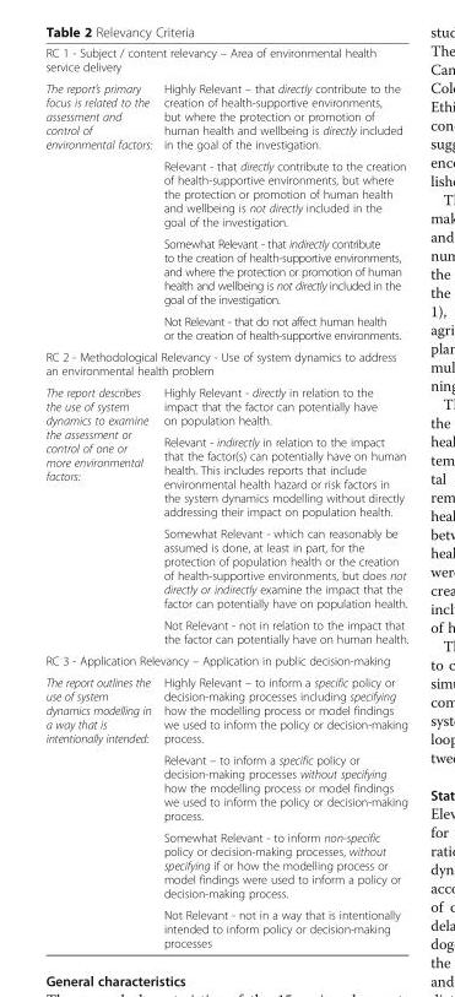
<table><tbody><tr><td colspan="2">RC 1 - Subject / content relevancy – Area of environmental health service delivery</td></tr><tr><td rowspan="4">The report’s primary focus is related to the assessment and control of environmental factors:</td><td>Highly Relevant – that directly contribute to the creation of health-supportive environments, but where the protection or promotion of human health and wellbeing is directly included in the goal of the investigation.</td></tr><tr><td>Relevant - that directly contribute to the creation of health-supportive environments, but where the protection or promotion of human health and wellbeing is not directly included in the goal of the investigation.</td></tr><tr><td>Somewhat Relevant - that indirectly contribute to the creation of health-supportive environments, and where the protection or promotion of human health and wellbeing is not directly included in the goal of the investigation.</td></tr><tr><td>Not Relevant - that do not affect human health or the creation of health-supportive environments.</td></tr><tr><td colspan="2">RC 2 - Methodological Relevancy - Use of system dynamics to address an environmental health problem</td></tr><tr><td rowspan="4">The report describes the use of system dynamics to examine the assessment or control of one or more environmental factors:</td><td>Highly Relevant - directly in relation to the impact that the factor can potentially have on population health.</td></tr><tr><td>Relevant - indirectly in relation to the impact that the factor(s) can potentially have on human health. This includes reports that include environmental health hazard or risk factors in the system dynamics modelling without directly addressing their impact on population health.</td></tr><tr><td>Somewhat Relevant - which can reasonably be assumed is done, at least in part, for the protection of population health or the creation of health-supportive environments, but does not directly or indirectly examine the impact that the factor can potentially have on population health.</td></tr><tr><td>Not Relevant - not in relation to the impact that the factor can potentially have on human health.</td></tr><tr><td colspan="2">RC 3 - Application Relevancy – Application in public decision-making</td></tr><tr><td rowspan="4">The report outlines the use of system dynamics modelling in a way that is intentionally intended:</td><td>Highly Relevant – to inform a specific policy or decision-making processes including specifying how the modelling process or model findings we used to inform the policy or decision-making process.</td></tr><tr><td>Relevant – to inform a specific policy or decision-making processes without specifying how the modelling process or model findings we used to inform the policy or decision-making process.</td></tr><tr><td>Somewhat Relevant - to inform non-specific policy or decision-making processes, without specifying if or how the modelling process or model findings were used to inform a policy or decision-making process.</td></tr><tr><td>Not Relevant - not in a way that is intentionally intended to inform policy or decision-making processes</td></tr></tbody></table>